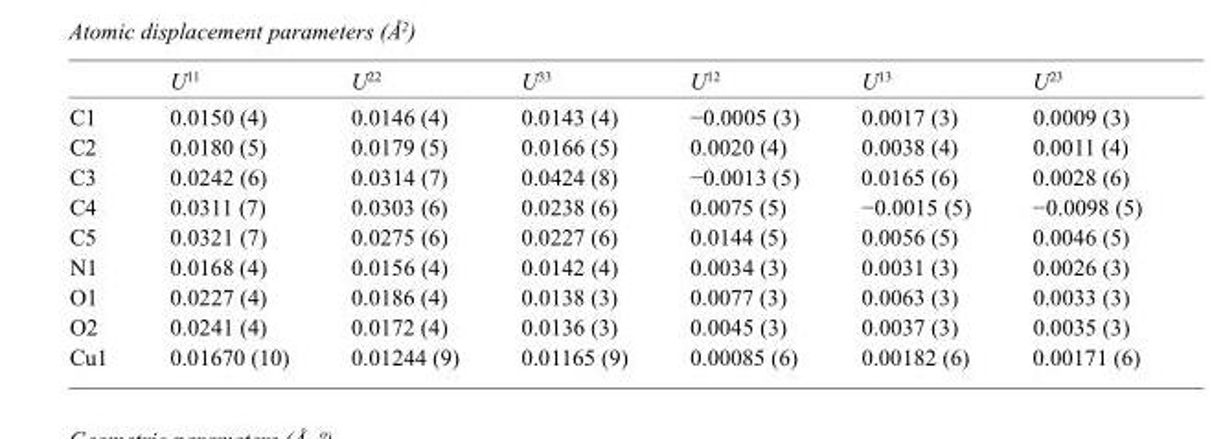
<table><thead><tr><td></td><td>U<sup>11</sup></td><td>U<sup>22</sup></td><td>U<sup>33</sup></td><td>U<sup>12</sup></td><td>U<sup>13</sup></td><td>U<sup>23</sup></td></tr></thead><tbody><tr><td>C1</td><td>0.0150 (4)</td><td>0.0146 (4)</td><td>0.0143 (4)</td><td>−0.0005 (3)</td><td>0.0017 (3)</td><td>0.0009 (3)</td></tr><tr><td>C2</td><td>0.0180 (5)</td><td>0.0179 (5)</td><td>0.0166 (5)</td><td>0.0020 (4)</td><td>0.0038 (4)</td><td>0.0011 (4)</td></tr><tr><td>C3</td><td>0.0242 (6)</td><td>0.0314 (7)</td><td>0.0424 (8)</td><td>−0.0013 (5)</td><td>0.0165 (6)</td><td>0.0028 (6)</td></tr><tr><td>C4</td><td>0.0311 (7)</td><td>0.0303 (6)</td><td>0.0238 (6)</td><td>0.0075 (5)</td><td>−0.0015 (5)</td><td>−0.0098 (5)</td></tr><tr><td>C5</td><td>0.0321 (7)</td><td>0.0275 (6)</td><td>0.0227 (6)</td><td>0.0144 (5)</td><td>0.0056 (5)</td><td>0.0046 (5)</td></tr><tr><td>N1</td><td>0.0168 (4)</td><td>0.0156 (4)</td><td>0.0142 (4)</td><td>0.0034 (3)</td><td>0.0031 (3)</td><td>0.0026 (3)</td></tr><tr><td>O1</td><td>0.0227 (4)</td><td>0.0186 (4)</td><td>0.0138 (3)</td><td>0.0077 (3)</td><td>0.0063 (3)</td><td>0.0033 (3)</td></tr><tr><td>O2</td><td>0.0241 (4)</td><td>0.0172 (4)</td><td>0.0136 (3)</td><td>0.0045 (3)</td><td>0.0037 (3)</td><td>0.0035 (3)</td></tr><tr><td>Cu1</td><td>0.01670 (10)</td><td>0.01244 (9)</td><td>0.01165 (9)</td><td>0.00085 (6)</td><td>0.00182 (6)</td><td>0.00171 (6)</td></tr></tbody></table>